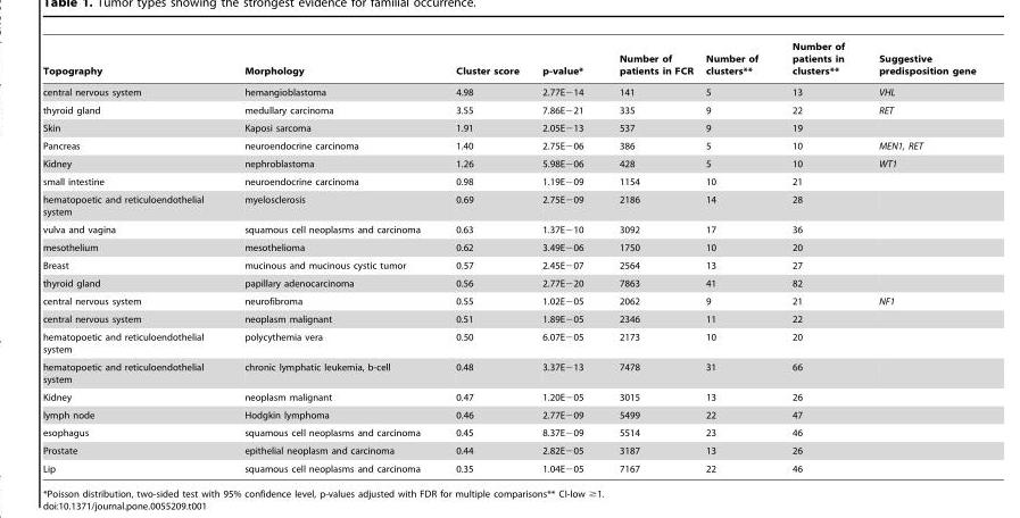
<table><thead><tr><td>Topography</td><td>Morphology</td><td>Cluster score</td><td>p-value*</td><td>Number of patients in FCR</td><td>Number of clusters**</td><td>Number of patients in clusters**</td><td>Suggestive predisposition gene</td></tr></thead><tbody><tr><td>central nervous system</td><td>hemangioblastoma</td><td>4.98</td><td>2.77E−14</td><td>141</td><td>5</td><td>13</td><td>VHL</td></tr><tr><td>thyroid gland</td><td>medullary carcinoma</td><td>3.55</td><td>7.86E−21</td><td>335</td><td>9</td><td>22</td><td>RET</td></tr><tr><td>Skin</td><td>Kaposi sarcoma</td><td>1.91</td><td>2.05E−13</td><td>537</td><td>9</td><td>19</td><td></td></tr><tr><td>Pancreas</td><td>neuroendocrine carcinoma</td><td>1.40</td><td>2.75E−06</td><td>386</td><td>5</td><td>10</td><td>MEN1, RET</td></tr><tr><td>Kidney</td><td>nephroblastoma</td><td>1.26</td><td>5.98E−06</td><td>428</td><td>5</td><td>10</td><td>WT1</td></tr><tr><td>small intestine</td><td>neuroendocrine carcinoma</td><td>0.98</td><td>1.19E−09</td><td>1154</td><td>10</td><td>21</td><td></td></tr><tr><td>hematopoetic and reticuloendothelial system</td><td>myelosclerosis</td><td>0.69</td><td>2.75E−09</td><td>2186</td><td>14</td><td>28</td><td></td></tr><tr><td>vulva and vagina</td><td>squamous cell neoplasms and carcinoma</td><td>0.63</td><td>1.37E−10</td><td>3092</td><td>17</td><td>36</td><td></td></tr><tr><td>mesothelium</td><td>mesothelioma</td><td>0.62</td><td>3.49E−06</td><td>1750</td><td>10</td><td>20</td><td></td></tr><tr><td>Breast</td><td>mucinous and mucinous cystic tumor</td><td>0.57</td><td>2.45E−07</td><td>2564</td><td>13</td><td>27</td><td></td></tr><tr><td>thyroid gland</td><td>papillary adenocarcinoma</td><td>0.56</td><td>2.77E−20</td><td>7863</td><td>41</td><td>82</td><td></td></tr><tr><td>central nervous system</td><td>neurofibroma</td><td>0.55</td><td>1.02E−05</td><td>2062</td><td>9</td><td>21</td><td>NF1</td></tr><tr><td>central nervous system</td><td>neoplasm malignant</td><td>0.51</td><td>1.89E−05</td><td>2346</td><td>11</td><td>22</td><td></td></tr><tr><td>hematopoetic and reticuloendothelial system</td><td>polycythemia vera</td><td>0.50</td><td>6.07E−05</td><td>2173</td><td>10</td><td>20</td><td></td></tr><tr><td>hematopoetic and reticuloendothelial system</td><td>chronic lymphatic leukemia, b-cell</td><td>0.48</td><td>3.37E−13</td><td>7478</td><td>31</td><td>66</td><td></td></tr><tr><td>Kidney</td><td>neoplasm malignant</td><td>0.47</td><td>1.20E−05</td><td>3015</td><td>13</td><td>26</td><td></td></tr><tr><td>lymph node</td><td>Hodgkin lymphoma</td><td>0.46</td><td>2.77E−09</td><td>5499</td><td>22</td><td>47</td><td></td></tr><tr><td>esophagus</td><td>squamous cell neoplasms and carcinoma</td><td>0.45</td><td>8.37E−09</td><td>5514</td><td>23</td><td>46</td><td></td></tr><tr><td>Prostate</td><td>epithelial neoplasm and carcinoma</td><td>0.44</td><td>2.82E−05</td><td>3187</td><td>13</td><td>26</td><td></td></tr><tr><td>Lip</td><td>squamous cell neoplasms and carcinoma</td><td>0.35</td><td>1.04E−05</td><td>7167</td><td>22</td><td>46</td><td></td></tr></tbody></table>